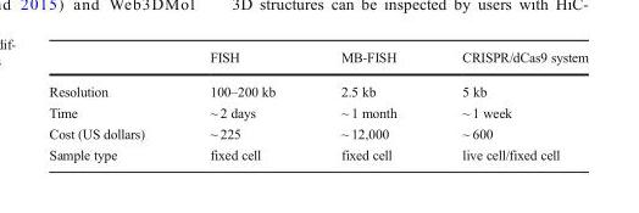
<table><thead><tr><td></td><td>FISH</td><td>MB-FISH</td><td>CRISPR/dCas9 system</td></tr></thead><tbody><tr><td>Resolution</td><td>100–200 kb</td><td>2.5 kb</td><td>5 kb</td></tr><tr><td>Time</td><td>~ 2 days</td><td>~ 1 month</td><td>~ 1 week</td></tr><tr><td>Cost (US dollars)</td><td>~ 225</td><td>~ 12,000</td><td>~ 600</td></tr><tr><td>Sample type</td><td>fixed cell</td><td>fixed cell</td><td>live cell/fixed cell</td></tr></tbody></table>